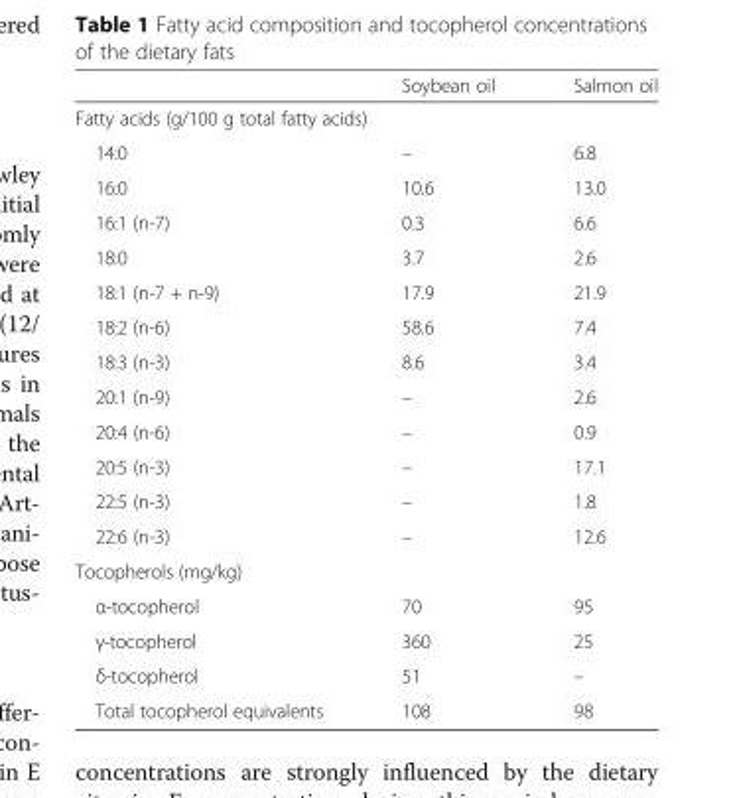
<table><thead><tr><td></td><td>Soybean oil</td><td>Salmon oil</td></tr></thead><tbody><tr><td colspan="3">Fatty acids (g/100 g total fatty acids)</td></tr><tr><td>14:0</td><td>–</td><td>6.8</td></tr><tr><td>16:0</td><td>10.6</td><td>13.0</td></tr><tr><td>16:1 (n-7)</td><td>0.3</td><td>6.6</td></tr><tr><td>18:0</td><td>3.7</td><td>2.6</td></tr><tr><td>18:1 (n-7 + n-9)</td><td>17.9</td><td>21.9</td></tr><tr><td>18:2 (n-6)</td><td>58.6</td><td>7.4</td></tr><tr><td>18:3 (n-3)</td><td>8.6</td><td>3.4</td></tr><tr><td>20:1 (n-9)</td><td>–</td><td>2.6</td></tr><tr><td>20:4 (n-6)</td><td>–</td><td>0.9</td></tr><tr><td>20:5 (n-3)</td><td>–</td><td>17.1</td></tr><tr><td>22:5 (n-3)</td><td>–</td><td>1.8</td></tr><tr><td>22:6 (n-3)</td><td>–</td><td>12.6</td></tr><tr><td colspan="3">Tocopherols (mg/kg)</td></tr><tr><td>α-tocopherol</td><td>70</td><td>95</td></tr><tr><td>γ-tocopherol</td><td>360</td><td>25</td></tr><tr><td>δ-tocopherol</td><td>51</td><td>–</td></tr><tr><td>Total tocopherol equivalents</td><td>108</td><td>98</td></tr></tbody></table>